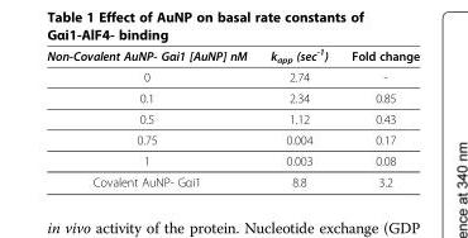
<table><thead><tr><td>Non-Covalent AuNP- Gαi1 [AuNP] nM</td><td>k<sub>app</sub> (sec<sup>-1</sup>)</td><td>Fold change</td></tr></thead><tbody><tr><td>0</td><td>2.74</td><td>-</td></tr><tr><td>0.1</td><td>2.34</td><td>0.85</td></tr><tr><td>0.5</td><td>1.12</td><td>0.43</td></tr><tr><td>0.75</td><td>0.004</td><td>0.17</td></tr><tr><td>1</td><td>0.003</td><td>0.08</td></tr><tr><td>Covalent AuNP- Gαi1</td><td>8.8</td><td>3.2</td></tr></tbody></table>